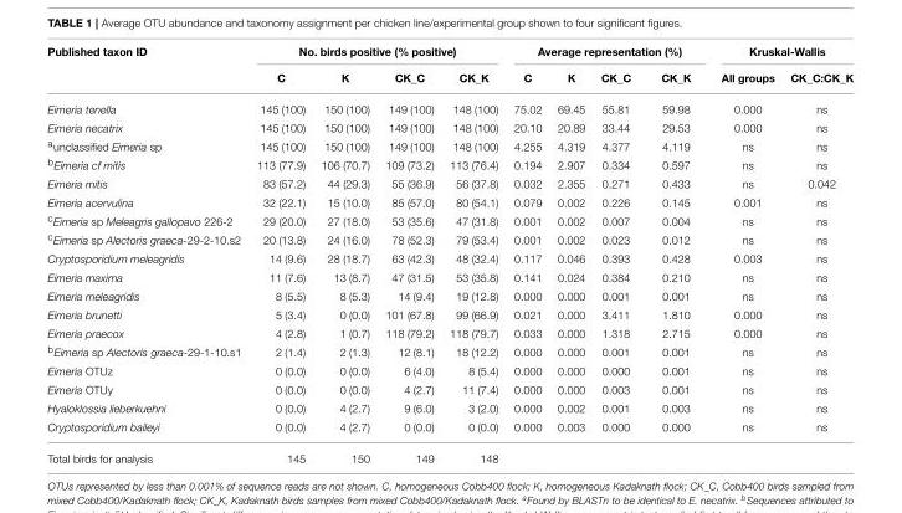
<table><thead><tr><td rowspan="2">Published taxon ID</td><td colspan="4">No. birds positive (% positive)</td><td colspan="4">Average representation (%)</td><td colspan="2">Kruskal-Wallis</td></tr><tr><td>C</td><td>K</td><td>CK_C</td><td>CK_K</td><td>C</td><td>K</td><td>CK_C</td><td>CK_K</td><td>All groups</td><td>CK_C:CK_K</td></tr></thead><tbody><tr><td>Eimeria tenella</td><td>145 (100)</td><td>150 (100)</td><td>149 (100)</td><td>148 (100)</td><td>75.02</td><td>69.45</td><td>55.81</td><td>59.98</td><td>0.000</td><td>ns</td></tr><tr><td>Eimeria necatrix</td><td>145 (100)</td><td>150 (100)</td><td>149 (100)</td><td>148 (100)</td><td>20.10</td><td>20.89</td><td>33.44</td><td>29.53</td><td>0.000</td><td>ns</td></tr><tr><td><sup>a</sup>unclassified Eimeria sp</td><td>145 (100)</td><td>150 (100)</td><td>149 (100)</td><td>148 (100)</td><td>4.255</td><td>4.319</td><td>4.377</td><td>4.119</td><td>ns</td><td>ns</td></tr><tr><td><sup>b</sup>Eimeria cf mitis</td><td>113 (77.9)</td><td>106 (70.7)</td><td>109 (73.2)</td><td>113 (76.4)</td><td>0.194</td><td>2.907</td><td>0.334</td><td>0.597</td><td>ns</td><td>ns</td></tr><tr><td>Eimeria mitis</td><td>83 (57.2)</td><td>44 (29.3)</td><td>55 (36.9)</td><td>56 (37.8)</td><td>0.032</td><td>2.355</td><td>0.271</td><td>0.433</td><td>ns</td><td>0.042</td></tr><tr><td>Eimeria acervulina</td><td>32 (22.1)</td><td>15 (10.0)</td><td>85 (57.0)</td><td>80 (54.1)</td><td>0.079</td><td>0.002</td><td>0.226</td><td>0.145</td><td>0.001</td><td>ns</td></tr><tr><td><sup>c</sup>Eimeria sp Meleagris gallopavo 226-2</td><td>29 (20.0)</td><td>27 (18.0)</td><td>53 (35.6)</td><td>47 (31.8)</td><td>0.001</td><td>0.002</td><td>0.007</td><td>0.004</td><td>ns</td><td>ns</td></tr><tr><td><sup>c</sup>Eimeria sp Alectoris graeca-29-2-10.s2</td><td>20 (13.8)</td><td>24 (16.0)</td><td>78 (52.3)</td><td>79 (53.4)</td><td>0.001</td><td>0.002</td><td>0.023</td><td>0.012</td><td>ns</td><td>ns</td></tr><tr><td>Cryptosporidium meleagridis</td><td>14 (9.6)</td><td>28 (18.7)</td><td>63 (42.3)</td><td>48 (32.4)</td><td>0.117</td><td>0.046</td><td>0.393</td><td>0.428</td><td>0.003</td><td>ns</td></tr><tr><td>Eimeria maxima</td><td>11 (7.6)</td><td>13 (8.7)</td><td>47 (31.5)</td><td>53 (35.8)</td><td>0.141</td><td>0.024</td><td>0.384</td><td>0.210</td><td>ns</td><td>ns</td></tr><tr><td>Eimeria meleagridis</td><td>8 (5.5)</td><td>8 (5.3)</td><td>14 (9.4)</td><td>19 (12.8)</td><td>0.000</td><td>0.000</td><td>0.001</td><td>0.001</td><td>ns</td><td>ns</td></tr><tr><td>Eimeria brunetti</td><td>5 (3.4)</td><td>0 (0.0)</td><td>101 (67.8)</td><td>99 (66.9)</td><td>0.021</td><td>0.000</td><td>3.411</td><td>1.810</td><td>0.000</td><td>ns</td></tr><tr><td>Eimeria praecox</td><td>4 (2.8)</td><td>1 (0.7)</td><td>118 (79.2)</td><td>118 (79.7)</td><td>0.033</td><td>0.000</td><td>1.318</td><td>2.715</td><td>0.000</td><td>ns</td></tr><tr><td><sup>b</sup>Eimeria sp Alectoris graeca-29-1-10.s1</td><td>2 (1.4)</td><td>2 (1.3)</td><td>12 (8.1)</td><td>18 (12.2)</td><td>0.000</td><td>0.000</td><td>0.001</td><td>0.001</td><td>ns</td><td>ns</td></tr><tr><td>Eimeria OTUz</td><td>0 (0.0)</td><td>0 (0.0)</td><td>6 (4.0)</td><td>8 (5.4)</td><td>0.000</td><td>0.000</td><td>0.000</td><td>0.001</td><td>ns</td><td>ns</td></tr><tr><td>Eimeria OTUy</td><td>0 (0.0)</td><td>0 (0.0)</td><td>4 (2.7)</td><td>11 (7.4)</td><td>0.000</td><td>0.000</td><td>0.003</td><td>0.001</td><td>ns</td><td>ns</td></tr><tr><td>Hyaloklossia lieberkuehni</td><td>0 (0.0)</td><td>4 (2.7)</td><td>9 (6.0)</td><td>3 (2.0)</td><td>0.000</td><td>0.002</td><td>0.001</td><td>0.003</td><td>ns</td><td>ns</td></tr><tr><td>Cryptosporidium baileyi</td><td>0 (0.0)</td><td>4 (2.7)</td><td>0 (0.0)</td><td>0 (0.0)</td><td>0.000</td><td>0.003</td><td>0.000</td><td>0.000</td><td>ns</td><td>ns</td></tr><tr><td>Total birds for analysis</td><td>145</td><td>150</td><td>149</td><td>148</td><td></td><td></td><td></td><td></td><td></td><td></td></tr></tbody></table>